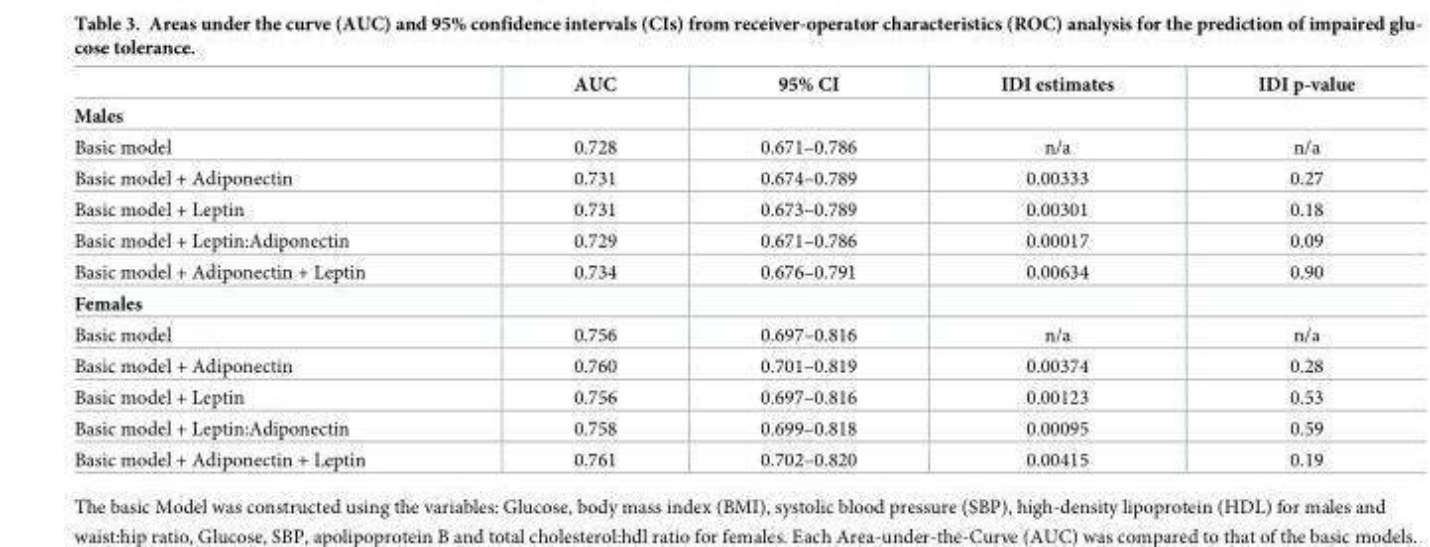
<table><thead><tr><td></td><td>AUC</td><td>95% CI</td><td>IDI estimates</td><td>IDI p-value</td></tr></thead><tbody><tr><td colspan="5">Males</td></tr><tr><td>Basic model</td><td>0.728</td><td>0.671–0.786</td><td>n/a</td><td>n/a</td></tr><tr><td>Basic model + Adiponectin</td><td>0.731</td><td>0.674–0.789</td><td>0.00333</td><td>0.27</td></tr><tr><td>Basic model + Leptin</td><td>0.731</td><td>0.673–0.789</td><td>0.00301</td><td>0.18</td></tr><tr><td>Basic model + Leptin:Adiponectin</td><td>0.729</td><td>0.671–0.786</td><td>0.00017</td><td>0.09</td></tr><tr><td>Basic model + Adiponectin + Leptin</td><td>0.734</td><td>0.676–0.791</td><td>0.00634</td><td>0.90</td></tr><tr><td colspan="5">Females</td></tr><tr><td>Basic model</td><td>0.756</td><td>0.697–0.816</td><td>n/a</td><td>n/a</td></tr><tr><td>Basic model + Adiponectin</td><td>0.760</td><td>0.701–0.819</td><td>0.00374</td><td>0.28</td></tr><tr><td>Basic model + Leptin</td><td>0.756</td><td>0.697–0.816</td><td>0.00123</td><td>0.53</td></tr><tr><td>Basic model + Leptin:Adiponectin</td><td>0.758</td><td>0.699–0.818</td><td>0.00095</td><td>0.59</td></tr><tr><td>Basic model + Adiponectin + Leptin</td><td>0.761</td><td>0.702–0.820</td><td>0.00415</td><td>0.19</td></tr></tbody></table>